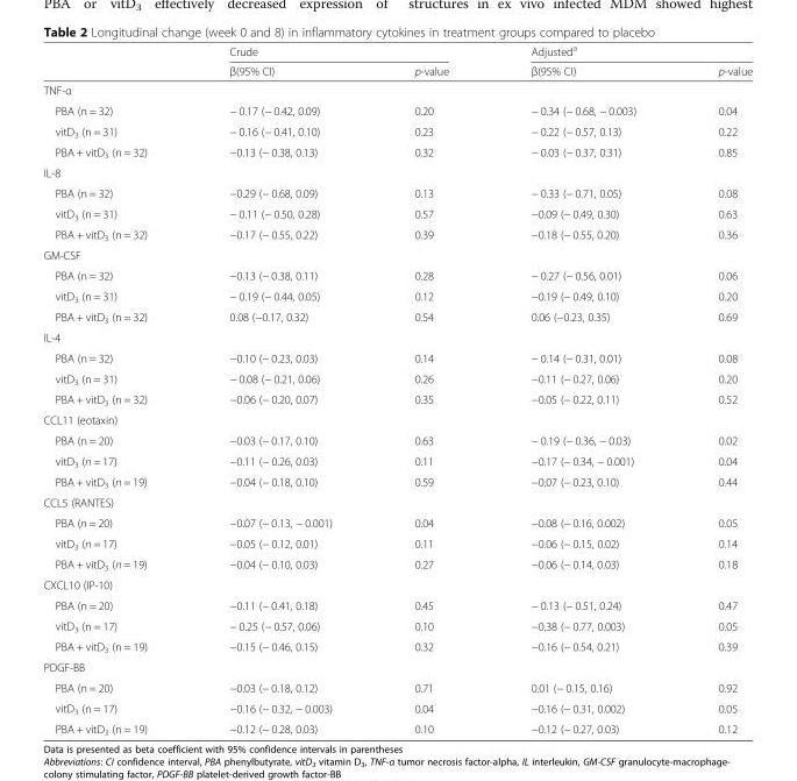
<table><thead><tr><td rowspan="2"></td><td colspan="2">Crude</td><td colspan="2">Adjusted<sup>a</sup></td></tr><tr><td>β(95% CI)</td><td>p-value</td><td>β(95% CI)</td><td>p-value</td></tr></thead><tbody><tr><td colspan="5">TNF-α</td></tr><tr><td>PBA (n = 32)</td><td>− 0.17 (− 0.42, 0.09)</td><td>0.20</td><td>− 0.34 (− 0.68, − 0.003)</td><td>0.04</td></tr><tr><td>vitD<sub>3</sub> (n = 31)</td><td>− 0.16 (− 0.41, 0.10)</td><td>0.23</td><td>− 0.22 (− 0.57, 0.13)</td><td>0.22</td></tr><tr><td>PBA + vitD<sub>3</sub> (n = 32)</td><td>−0.13 (− 0.38, 0.13)</td><td>0.32</td><td>− 0.03 (− 0.37, 0.31)</td><td>0.85</td></tr><tr><td colspan="5">IL-8</td></tr><tr><td>PBA (n = 32)</td><td>−0.29 (− 0.68, 0.09)</td><td>0.13</td><td>− 0.33 (− 0.71, 0.05)</td><td>0.08</td></tr><tr><td>vitD<sub>3</sub> (n = 31)</td><td>− 0.11 (− 0.50, 0.28)</td><td>0.57</td><td>−0.09 (− 0.49, 0.30)</td><td>0.63</td></tr><tr><td>PBA + vitD<sub>3</sub> (n = 32)</td><td>−0.17 (− 0.55, 0.22)</td><td>0.39</td><td>−0.18 (− 0.55, 0.20)</td><td>0.36</td></tr><tr><td colspan="5">GM-CSF</td></tr><tr><td>PBA (n = 32)</td><td>−0.13 (− 0.38, 0.11)</td><td>0.28</td><td>− 0.27 (− 0.56, 0.01)</td><td>0.06</td></tr><tr><td>vitD<sub>3</sub> (n = 31)</td><td>− 0.19 (− 0.44, 0.05)</td><td>0.12</td><td>−0.19 (− 0.49, 0.10)</td><td>0.20</td></tr><tr><td>PBA + vitD<sub>3</sub> (n = 32)</td><td>0.08 (−0.17, 0.32)</td><td>0.54</td><td>0.06 (−0.23, 0.35)</td><td>0.69</td></tr><tr><td colspan="5">IL-4</td></tr><tr><td>PBA (n = 32)</td><td>−0.10 (− 0.23, 0.03)</td><td>0.14</td><td>− 0.14 (− 0.31, 0.01)</td><td>0.08</td></tr><tr><td>vitD<sub>3</sub> (n = 31)</td><td>− 0.08 (− 0.21, 0.06)</td><td>0.26</td><td>−0.11 (− 0.27, 0.06)</td><td>0.20</td></tr><tr><td>PBA + vitD<sub>3</sub> (n = 32)</td><td>−0.06 (− 0.20, 0.07)</td><td>0.35</td><td>−0.05 (− 0.22, 0.11)</td><td>0.52</td></tr><tr><td colspan="5">CCL11 (eotaxin)</td></tr><tr><td>PBA (n = 20)</td><td>−0.03 (− 0.17, 0.10)</td><td>0.63</td><td>− 0.19 (− 0.36, − 0.03)</td><td>0.02</td></tr><tr><td>vitD<sub>3</sub> (n = 17)</td><td>−0.11 (− 0.26, 0.03)</td><td>0.11</td><td>−0.17 (− 0.34, − 0.001)</td><td>0.04</td></tr><tr><td>PBA + vitD<sub>3</sub> (n = 19)</td><td>−0.04 (− 0.18, 0.10)</td><td>0.59</td><td>−0.07 (− 0.23, 0.10)</td><td>0.44</td></tr><tr><td colspan="5">CCL5 (RANTES)</td></tr><tr><td>PBA (n = 20)</td><td>−0.07 (− 0.13, − 0.001)</td><td>0.04</td><td>−0.08 (− 0.16, 0.002)</td><td>0.05</td></tr><tr><td>vitD<sub>3</sub> (n = 17)</td><td>−0.05 (− 0.12, 0.01)</td><td>0.11</td><td>−0.06 (− 0.15, 0.02)</td><td>0.14</td></tr><tr><td>PBA + vitD<sub>3</sub> (n = 19)</td><td>−0.04 (− 0.10, 0.03)</td><td>0.27</td><td>−0.06 (− 0.14, 0.03)</td><td>0.18</td></tr><tr><td colspan="5">CXCL10 (IP-10)</td></tr><tr><td>PBA (n = 20)</td><td>−0.11 (− 0.41, 0.18)</td><td>0.45</td><td>− 0.13 (− 0.51, 0.24)</td><td>0.47</td></tr><tr><td>vitD<sub>3</sub> (n = 17)</td><td>− 0.25 (− 0.57, 0.06)</td><td>0.10</td><td>−0.38 (− 0.77, 0.003)</td><td>0.05</td></tr><tr><td>PBA + vitD<sub>3</sub> (n = 19)</td><td>−0.15 (− 0.46, 0.15)</td><td>0.32</td><td>−0.16 (− 0.54, 0.21)</td><td>0.39</td></tr><tr><td colspan="5">PDGF-BB</td></tr><tr><td>PBA (n = 20)</td><td>−0.03 (− 0.18, 0.12)</td><td>0.71</td><td>0.01 (− 0.15, 0.16)</td><td>0.92</td></tr><tr><td>vitD<sub>3</sub> (n = 17)</td><td>−0.16 (− 0.32, − 0.003)</td><td>0.04</td><td>−0.16 (− 0.31, 0.002)</td><td>0.05</td></tr><tr><td>PBA + vitD<sub>3</sub> (n = 19)</td><td>−0.12 (− 0.28, 0.03)</td><td>0.10</td><td>−0.12 (− 0.27, 0.03)</td><td>0.12</td></tr></tbody></table>